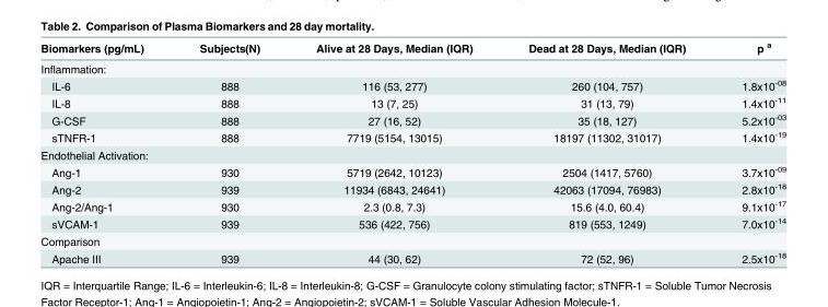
<table><thead><tr><td>Biomarkers (pg/mL)</td><td>Subjects(N)</td><td>Alive at 28 Days, Median (IQR)</td><td>Dead at 28 Days, Median (IQR)</td><td>p <sup>a</sup></td></tr></thead><tbody><tr><td colspan="5">Inflammation:</td></tr><tr><td>IL-6</td><td>888</td><td>116 (53, 277)</td><td>260 (104, 757)</td><td>1.8x10<sup>-08</sup></td></tr><tr><td>IL-8</td><td>888</td><td>13 (7, 25)</td><td>31 (13, 79)</td><td>1.4x10<sup>-11</sup></td></tr><tr><td>G-CSF</td><td>888</td><td>27 (16, 52)</td><td>35 (18, 127)</td><td>5.2x10<sup>-03</sup></td></tr><tr><td>sTNFR-1</td><td>888</td><td>7719 (5154, 13015)</td><td>18197 (11302, 31017)</td><td>1.4x10<sup>-19</sup></td></tr><tr><td colspan="5">Endothelial Activation:</td></tr><tr><td>Ang-1</td><td>930</td><td>5719 (2642, 10123)</td><td>2504 (1417, 5760)</td><td>3.7x10<sup>-09</sup></td></tr><tr><td>Ang-2</td><td>939</td><td>11934 (6843, 24641)</td><td>42063 (17094, 76983)</td><td>2.8x10<sup>-18</sup></td></tr><tr><td>Ang-2/Ang-1</td><td>930</td><td>2.3 (0.8, 7.3)</td><td>15.6 (4.0, 60.4)</td><td>9.1x10<sup>-17</sup></td></tr><tr><td>sVCAM-1</td><td>939</td><td>536 (422, 756)</td><td>819 (553, 1249)</td><td>7.0x10<sup>-14</sup></td></tr><tr><td colspan="5">Comparison</td></tr><tr><td>Apache III</td><td>939</td><td>44 (30, 62)</td><td>72 (52, 96)</td><td>2.5x10<sup>-18</sup></td></tr></tbody></table>